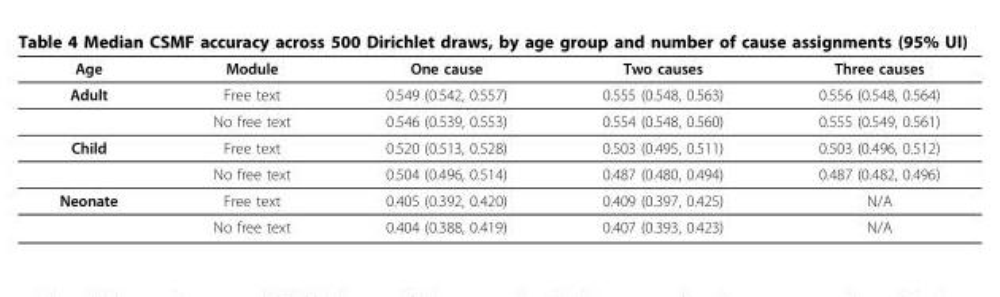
<table><thead><tr><td>Age</td><td>Module</td><td>One cause</td><td>Two causes</td><td>Three causes</td></tr></thead><tbody><tr><td rowspan="2">Adult</td><td>Free text</td><td>0.549 (0.542, 0.557)</td><td>0.555 (0.548, 0.563)</td><td>0.556 (0.548, 0.564)</td></tr><tr><td>No free text</td><td>0.546 (0.539, 0.553)</td><td>0.554 (0.548, 0.560)</td><td>0.555 (0.549, 0.561)</td></tr><tr><td rowspan="2">Child</td><td>Free text</td><td>0.520 (0.513, 0.528)</td><td>0.503 (0.495, 0.511)</td><td>0.503 (0.496, 0.512)</td></tr><tr><td>No free text</td><td>0.504 (0.496, 0.514)</td><td>0.487 (0.480, 0.494)</td><td>0.487 (0.482, 0.496)</td></tr><tr><td rowspan="2">Neonate</td><td>Free text</td><td>0.405 (0.392, 0.420)</td><td>0.409 (0.397, 0.425)</td><td>N/A</td></tr><tr><td>No free text</td><td>0.404 (0.388, 0.419)</td><td>0.407 (0.393, 0.423)</td><td>N/A</td></tr></tbody></table>